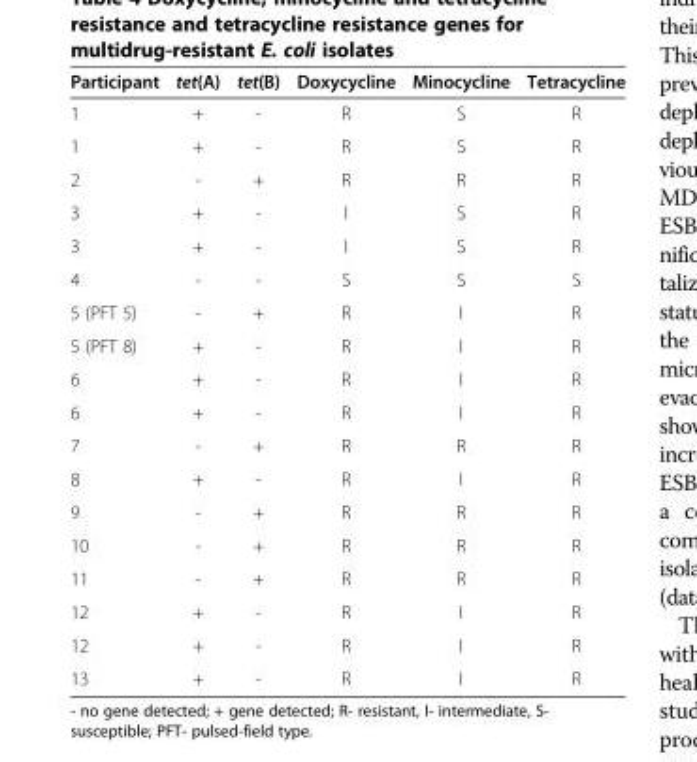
<table><thead><tr><td>Participant</td><td>tet(A)</td><td>tet(B)</td><td>Doxycycline</td><td>Minocycline</td><td>Tetracycline</td></tr></thead><tbody><tr><td>1</td><td>+</td><td>-</td><td>R</td><td>S</td><td>R</td></tr><tr><td>1</td><td>+</td><td>-</td><td>R</td><td>S</td><td>R</td></tr><tr><td>2</td><td>-</td><td>+</td><td>R</td><td>R</td><td>R</td></tr><tr><td>3</td><td>+</td><td>-</td><td>I</td><td>S</td><td>R</td></tr><tr><td>3</td><td>+</td><td>-</td><td>I</td><td>S</td><td>R</td></tr><tr><td>4</td><td>-</td><td>-</td><td>S</td><td>S</td><td>S</td></tr><tr><td>5 (PFT 5)</td><td>-</td><td>+</td><td>R</td><td>I</td><td>R</td></tr><tr><td>5 (PFT 8)</td><td>+</td><td>-</td><td>R</td><td>I</td><td>R</td></tr><tr><td>6</td><td>+</td><td>-</td><td>R</td><td>I</td><td>R</td></tr><tr><td>6</td><td>+</td><td>-</td><td>R</td><td>I</td><td>R</td></tr><tr><td>7</td><td>-</td><td>+</td><td>R</td><td>R</td><td>R</td></tr><tr><td>8</td><td>+</td><td>-</td><td>R</td><td>I</td><td>R</td></tr><tr><td>9</td><td>-</td><td>+</td><td>R</td><td>R</td><td>R</td></tr><tr><td>10</td><td>-</td><td>+</td><td>R</td><td>R</td><td>R</td></tr><tr><td>11</td><td>-</td><td>+</td><td>R</td><td>R</td><td>R</td></tr><tr><td>12</td><td>+</td><td>-</td><td>R</td><td>I</td><td>R</td></tr><tr><td>12</td><td>+</td><td>-</td><td>R</td><td>I</td><td>R</td></tr><tr><td>13</td><td>+</td><td>-</td><td>R</td><td>I</td><td>R</td></tr></tbody></table>